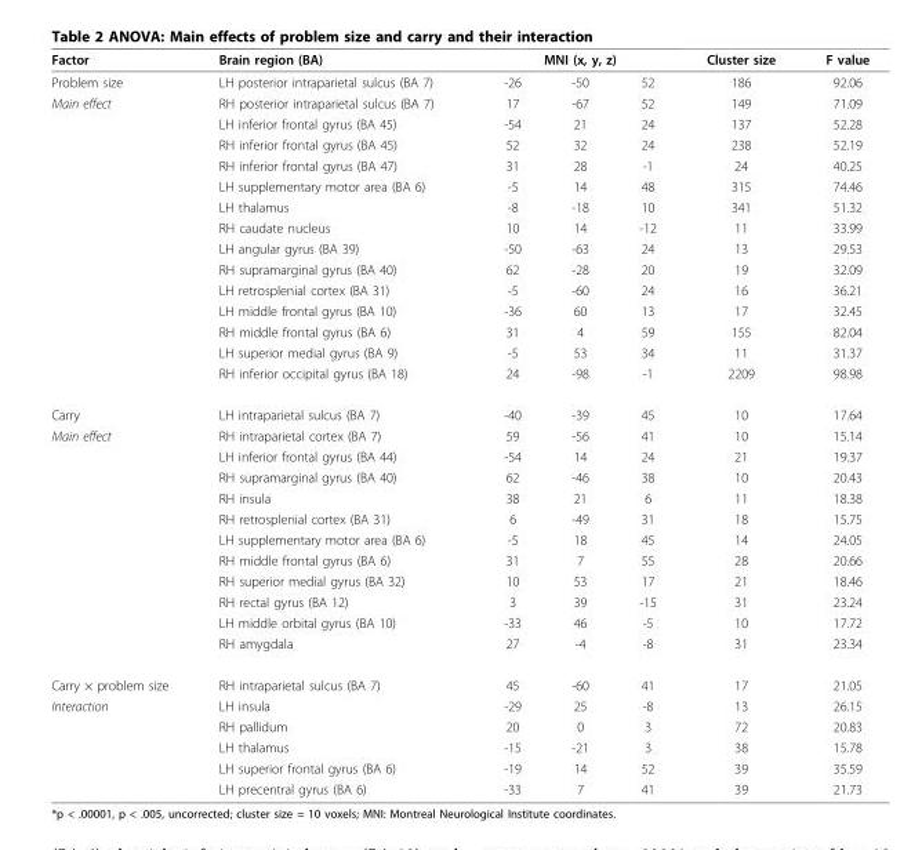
<table><thead><tr><td rowspan="2">Factor Problem size</td><td rowspan="2">Brain region (BA) LH posterior intraparietal sulcus (BA 7)</td><td colspan="3">MNI (x, y, z)</td><td rowspan="2">Cluster size 186</td><td rowspan="2">F value 92.06</td></tr><tr><td>-26</td><td>-50</td><td>52</td></tr></thead><tbody><tr><td rowspan="14">Main effect</td><td>RH posterior intraparietal sulcus (BA 7)</td><td>17</td><td>-67</td><td>52</td><td>149</td><td>71.09</td></tr><tr><td>LH inferior frontal gyrus (BA 45)</td><td>-54</td><td>21</td><td>24</td><td>137</td><td>52.28</td></tr><tr><td>RH inferior frontal gyrus (BA 45)</td><td>52</td><td>32</td><td>24</td><td>238</td><td>52.19</td></tr><tr><td>RH inferior frontal gyrus (BA 47)</td><td>31</td><td>28</td><td>-1</td><td>24</td><td>40.25</td></tr><tr><td>LH supplementary motor area (BA 6)</td><td>-5</td><td>14</td><td>48</td><td>315</td><td>74.46</td></tr><tr><td>LH thalamus</td><td>-8</td><td>-18</td><td>10</td><td>341</td><td>51.32</td></tr><tr><td>RH caudate nucleus</td><td>10</td><td>14</td><td>-12</td><td>11</td><td>33.99</td></tr><tr><td>LH angular gyrus (BA 39)</td><td>-50</td><td>-63</td><td>24</td><td>13</td><td>29.53</td></tr><tr><td>RH supramarginal gyrus (BA 40)</td><td>62</td><td>-28</td><td>20</td><td>19</td><td>32.09</td></tr><tr><td>LH retrosplenial cortex (BA 31)</td><td>-5</td><td>-60</td><td>24</td><td>16</td><td>36.21</td></tr><tr><td>LH middle frontal gyrus (BA 10)</td><td>-36</td><td>60</td><td>13</td><td>17</td><td>32.45</td></tr><tr><td>RH middle frontal gyrus (BA 6)</td><td>31</td><td>4</td><td>59</td><td>155</td><td>82.04</td></tr><tr><td>LH superior medial gyrus (BA 9)</td><td>-5</td><td>53</td><td>34</td><td>11</td><td>31.37</td></tr><tr><td>RH inferior occipital gyrus (BA 18)</td><td>24</td><td>-98</td><td>-1</td><td>2209</td><td>98.98</td></tr><tr><td>Carry</td><td>LH intraparietal sulcus (BA 7)</td><td>-40</td><td>-39</td><td>45</td><td>10</td><td>17.64</td></tr><tr><td rowspan="11">Main effect</td><td>RH intraparietal cortex (BA 7)</td><td>59</td><td>-56</td><td>41</td><td>10</td><td>15.14</td></tr><tr><td>LH inferior frontal gyrus (BA 44)</td><td>-54</td><td>14</td><td>24</td><td>21</td><td>19.37</td></tr><tr><td>RH supramarginal gyrus (BA 40)</td><td>62</td><td>-46</td><td>38</td><td>10</td><td>20.43</td></tr><tr><td>RH insula</td><td>38</td><td>21</td><td>6</td><td>11</td><td>18.38</td></tr><tr><td>RH retrosplenial cortex (BA 31)</td><td>6</td><td>-49</td><td>31</td><td>18</td><td>15.75</td></tr><tr><td>LH supplementary motor area (BA 6)</td><td>-5</td><td>18</td><td>45</td><td>14</td><td>24.05</td></tr><tr><td>RH middle frontal gyrus (BA 6)</td><td>31</td><td>7</td><td>55</td><td>28</td><td>20.66</td></tr><tr><td>RH superior medial gyrus (BA 32)</td><td>10</td><td>53</td><td>17</td><td>21</td><td>18.46</td></tr><tr><td>RH rectal gyrus (BA 12)</td><td>3</td><td>39</td><td>-15</td><td>31</td><td>23.24</td></tr><tr><td>LH middle orbital gyrus (BA 10)</td><td>-33</td><td>46</td><td>-5</td><td>10</td><td>17.72</td></tr><tr><td>RH amygdala</td><td>27</td><td>-4</td><td>-8</td><td>31</td><td>23.34</td></tr><tr><td>Carry × problem size</td><td>RH intraparietal sulcus (BA 7)</td><td>45</td><td>-60</td><td>41</td><td>17</td><td>21.05</td></tr><tr><td rowspan="5">Interaction</td><td>LH insula</td><td>-29</td><td>25</td><td>-8</td><td>13</td><td>26.15</td></tr><tr><td>RH pallidum</td><td>20</td><td>0</td><td>3</td><td>72</td><td>20.83</td></tr><tr><td>LH thalamus</td><td>-15</td><td>-21</td><td>3</td><td>38</td><td>15.78</td></tr><tr><td>LH superior frontal gyrus (BA 6)</td><td>-19</td><td>14</td><td>52</td><td>39</td><td>35.59</td></tr><tr><td>LH precentral gyrus (BA 6)</td><td>-33</td><td>7</td><td>41</td><td>39</td><td>21.73</td></tr></tbody></table>